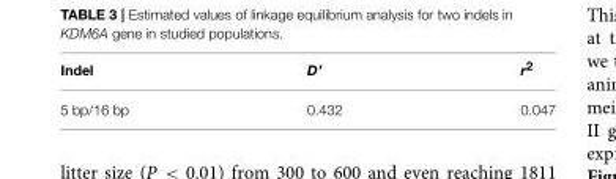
<table><thead><tr><td>Indel</td><td>D’</td><td>r<sup>2</sup></td></tr></thead><tbody><tr><td>5 bp/16 bp</td><td>0.432</td><td>0.047</td></tr></tbody></table>